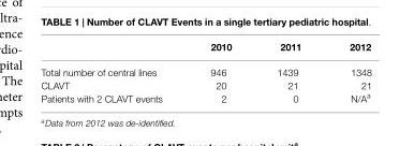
<table><thead><tr><td></td><td>2010</td><td>2011</td><td>2012</td></tr></thead><tbody><tr><td>Total number of central lines</td><td>946</td><td>1439</td><td>1348</td></tr><tr><td>CLAVT</td><td>20</td><td>21</td><td>21</td></tr><tr><td>Patients with 2 CLAVT events</td><td>2</td><td>0</td><td>N/A<sup>a</sup></td></tr></tbody></table>